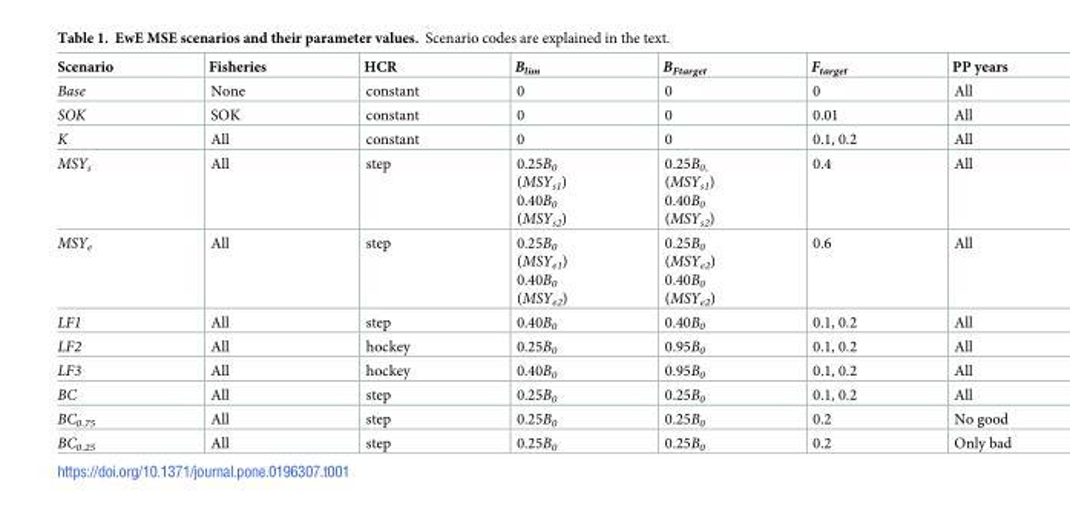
<table><thead><tr><td>Scenario</td><td>Fisheries</td><td>HCR</td><td>B<sub>lim</sub></td><td>B<sub>Ftarget</sub></td><td>F<sub>target</sub></td><td>PP years</td></tr></thead><tbody><tr><td>Base</td><td>None</td><td>constant</td><td>0</td><td>0</td><td>0</td><td>All</td></tr><tr><td>SOK</td><td>SOK</td><td>constant</td><td>0</td><td>0</td><td>0.01</td><td>All</td></tr><tr><td>K</td><td>All</td><td>constant</td><td>0</td><td>0</td><td>0.1, 0.2</td><td>All</td></tr><tr><td>MSY<sub>s</sub></td><td>All</td><td>step</td><td>0.25B<sub>0</sub> (MSY<sub>s1</sub>) 0.40B<sub>0</sub> (MSY<sub>s2</sub>)</td><td>0.25B<sub>0,</sub> (MSY<sub>s1</sub>) 0.40B<sub>0</sub> (MSY<sub>s2</sub>)</td><td>0.4</td><td>All</td></tr><tr><td>MSY<sub>e</sub></td><td>All</td><td>step</td><td>0.25B<sub>0</sub> (MSY<sub>e1</sub>) 0.40B<sub>0</sub> (MSY<sub>e2</sub>)</td><td>0.25B<sub>0</sub> (MSY<sub>e2</sub>) 0.40B<sub>0</sub> (MSY<sub>e2</sub>)</td><td>0.6</td><td>All</td></tr><tr><td>LF1</td><td>All</td><td>step</td><td>0.40B<sub>0</sub></td><td>0.40B<sub>0</sub></td><td>0.1, 0.2</td><td>All</td></tr><tr><td>LF2</td><td>All</td><td>hockey</td><td>0.25B<sub>0</sub></td><td>0.95B<sub>0</sub></td><td>0.1, 0.2</td><td>All</td></tr><tr><td>LF3</td><td>All</td><td>hockey</td><td>0.40B<sub>0</sub></td><td>0.95B<sub>0</sub></td><td>0.1, 0.2</td><td>All</td></tr><tr><td>BC</td><td>All</td><td>step</td><td>0.25B<sub>0</sub></td><td>0.25B<sub>0</sub></td><td>0.1, 0.2</td><td>All</td></tr><tr><td>BC<sub>0.75</sub></td><td>All</td><td>step</td><td>0.25B<sub>0</sub></td><td>0.25B<sub>0</sub></td><td>0.2</td><td>No good</td></tr><tr><td>BC<sub>0.25</sub></td><td>All</td><td>step</td><td>0.25B<sub>0</sub></td><td>0.25B<sub>0</sub></td><td>0.2</td><td>Only bad</td></tr></tbody></table>